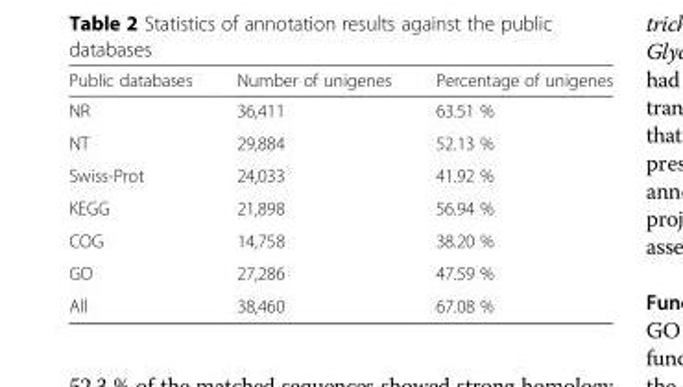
<table><thead><tr><td>Public databases</td><td>Number of unigenes</td><td>Percentage of unigenes</td></tr></thead><tbody><tr><td>NR</td><td>36,411</td><td>63.51 %</td></tr><tr><td>NT</td><td>29,884</td><td>52.13 %</td></tr><tr><td>Swiss-Prot</td><td>24,033</td><td>41.92 %</td></tr><tr><td>KEGG</td><td>21,898</td><td>56.94 %</td></tr><tr><td>COG</td><td>14,758</td><td>38.20 %</td></tr><tr><td>GO</td><td>27,286</td><td>47.59 %</td></tr><tr><td>All</td><td>38,460</td><td>67.08 %</td></tr></tbody></table>